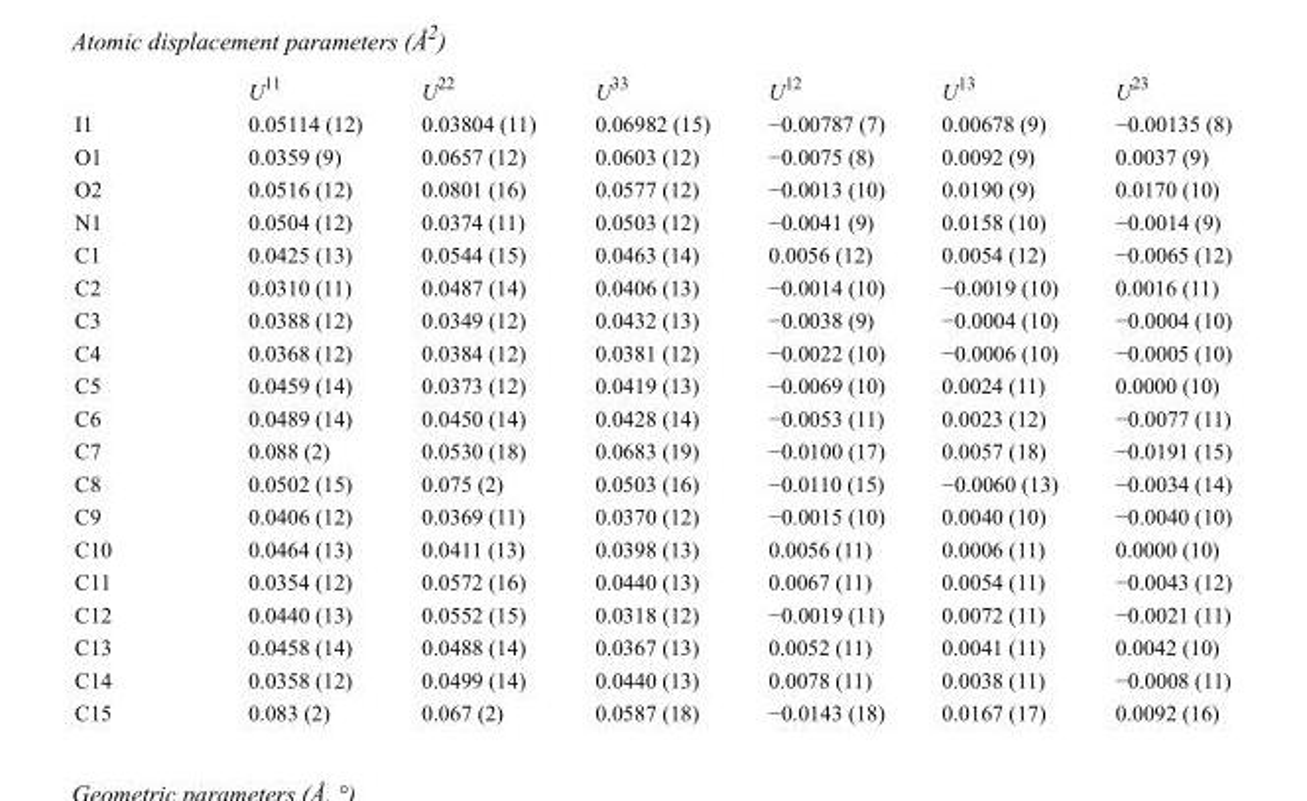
<table><thead><tr><td></td><td>U<sup>11</sup></td><td>U<sup>22</sup></td><td>U<sup>33</sup></td><td>U<sup>12</sup></td><td>U<sup>13</sup></td><td>U<sup>23</sup></td></tr></thead><tbody><tr><td>I1</td><td>0.05114 (12)</td><td>0.03804 (11)</td><td>0.06982 (15)</td><td>−0.00787 (7)</td><td>0.00678 (9)</td><td>−0.00135 (8)</td></tr><tr><td>O1</td><td>0.0359 (9)</td><td>0.0657 (12)</td><td>0.0603 (12)</td><td>−0.0075 (8)</td><td>0.0092 (9)</td><td>0.0037 (9)</td></tr><tr><td>O2</td><td>0.0516 (12)</td><td>0.0801 (16)</td><td>0.0577 (12)</td><td>−0.0013 (10)</td><td>0.0190 (9)</td><td>0.0170 (10)</td></tr><tr><td>N1</td><td>0.0504 (12)</td><td>0.0374 (11)</td><td>0.0503 (12)</td><td>−0.0041 (9)</td><td>0.0158 (10)</td><td>−0.0014 (9)</td></tr><tr><td>C1</td><td>0.0425 (13)</td><td>0.0544 (15)</td><td>0.0463 (14)</td><td>0.0056 (12)</td><td>0.0054 (12)</td><td>−0.0065 (12)</td></tr><tr><td>C2</td><td>0.0310 (11)</td><td>0.0487 (14)</td><td>0.0406 (13)</td><td>−0.0014 (10)</td><td>−0.0019 (10)</td><td>0.0016 (11)</td></tr><tr><td>C3</td><td>0.0388 (12)</td><td>0.0349 (12)</td><td>0.0432 (13)</td><td>−0.0038 (9)</td><td>−0.0004 (10)</td><td>−0.0004 (10)</td></tr><tr><td>C4</td><td>0.0368 (12)</td><td>0.0384 (12)</td><td>0.0381 (12)</td><td>−0.0022 (10)</td><td>−0.0006 (10)</td><td>−0.0005 (10)</td></tr><tr><td>C5</td><td>0.0459 (14)</td><td>0.0373 (12)</td><td>0.0419 (13)</td><td>−0.0069 (10)</td><td>0.0024 (11)</td><td>0.0000 (10)</td></tr><tr><td>C6</td><td>0.0489 (14)</td><td>0.0450 (14)</td><td>0.0428 (14)</td><td>−0.0053 (11)</td><td>0.0023 (12)</td><td>−0.0077 (11)</td></tr><tr><td>C7</td><td>0.088 (2)</td><td>0.0530 (18)</td><td>0.0683 (19)</td><td>−0.0100 (17)</td><td>0.0057 (18)</td><td>−0.0191 (15)</td></tr><tr><td>C8</td><td>0.0502 (15)</td><td>0.075 (2)</td><td>0.0503 (16)</td><td>−0.0110 (15)</td><td>−0.0060 (13)</td><td>−0.0034 (14)</td></tr><tr><td>C9</td><td>0.0406 (12)</td><td>0.0369 (11)</td><td>0.0370 (12)</td><td>−0.0015 (10)</td><td>0.0040 (10)</td><td>−0.0040 (10)</td></tr><tr><td>C10</td><td>0.0464 (13)</td><td>0.0411 (13)</td><td>0.0398 (13)</td><td>0.0056 (11)</td><td>0.0006 (11)</td><td>0.0000 (10)</td></tr><tr><td>C11</td><td>0.0354 (12)</td><td>0.0572 (16)</td><td>0.0440 (13)</td><td>0.0067 (11)</td><td>0.0054 (11)</td><td>−0.0043 (12)</td></tr><tr><td>C12</td><td>0.0440 (13)</td><td>0.0552 (15)</td><td>0.0318 (12)</td><td>−0.0019 (11)</td><td>0.0072 (11)</td><td>−0.0021 (11)</td></tr><tr><td>C13</td><td>0.0458 (14)</td><td>0.0488 (14)</td><td>0.0367 (13)</td><td>0.0052 (11)</td><td>0.0041 (11)</td><td>0.0042 (10)</td></tr><tr><td>C14</td><td>0.0358 (12)</td><td>0.0499 (14)</td><td>0.0440 (13)</td><td>0.0078 (11)</td><td>0.0038 (11)</td><td>−0.0008 (11)</td></tr><tr><td>C15</td><td>0.083 (2)</td><td>0.067 (2)</td><td>0.0587 (18)</td><td>−0.0143 (18)</td><td>0.0167 (17)</td><td>0.0092 (16)</td></tr></tbody></table>